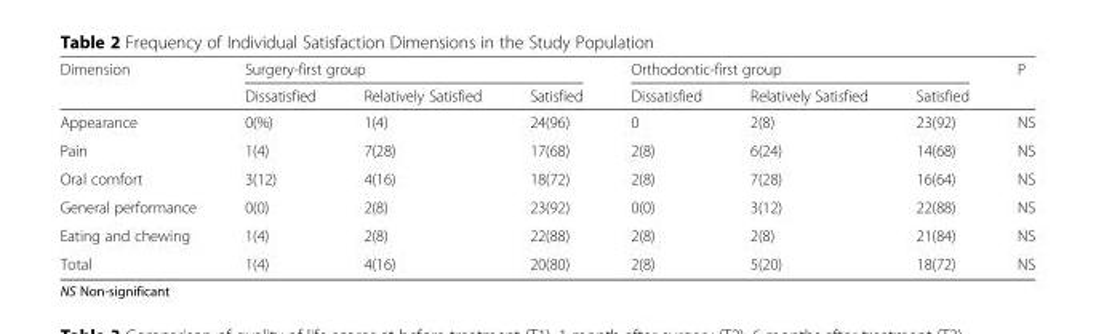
<table><thead><tr><td rowspan="2">Dimension</td><td colspan="3">Surgery-first group</td><td colspan="3">Orthodontic-first group</td><td rowspan="2">P</td></tr><tr><td>Dissatisfied</td><td>Relatively Satisfied</td><td>Satisfied</td><td>Dissatisfied</td><td>Relatively Satisfied</td><td>Satisfied</td></tr></thead><tbody><tr><td>Appearance</td><td>0(%)</td><td>1(4)</td><td>24(96)</td><td>0</td><td>2(8)</td><td>23(92)</td><td>NS</td></tr><tr><td>Pain</td><td>1(4)</td><td>7(28)</td><td>17(68)</td><td>2(8)</td><td>6(24)</td><td>14(68)</td><td>NS</td></tr><tr><td>Oral comfort</td><td>3(12)</td><td>4(16)</td><td>18(72)</td><td>2(8)</td><td>7(28)</td><td>16(64)</td><td>NS</td></tr><tr><td>General performance</td><td>0(0)</td><td>2(8)</td><td>23(92)</td><td>0(0)</td><td>3(12)</td><td>22(88)</td><td>NS</td></tr><tr><td>Eating and chewing</td><td>1(4)</td><td>2(8)</td><td>22(88)</td><td>2(8)</td><td>2(8)</td><td>21(84)</td><td>NS</td></tr><tr><td>Total</td><td>1(4)</td><td>4(16)</td><td>20(80)</td><td>2(8)</td><td>5(20)</td><td>18(72)</td><td>NS</td></tr></tbody></table>